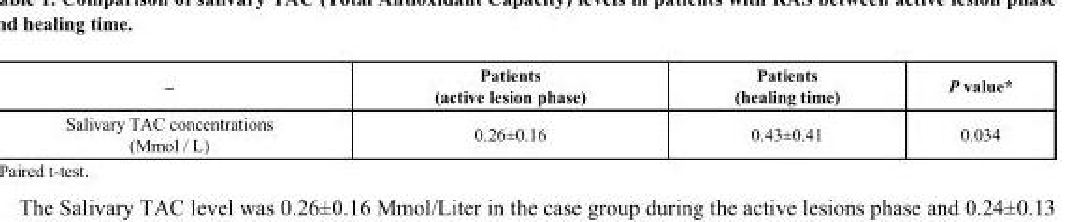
<table><thead><tr><td>–</td><td>Patients (active lesion phase)</td><td>Patients (healing time)</td><td>P value*</td></tr></thead><tbody><tr><td>Salivary TAC concentrations (Mmol / L)</td><td>0.26±0.16</td><td>0.43±0.41</td><td>0.034</td></tr></tbody></table>